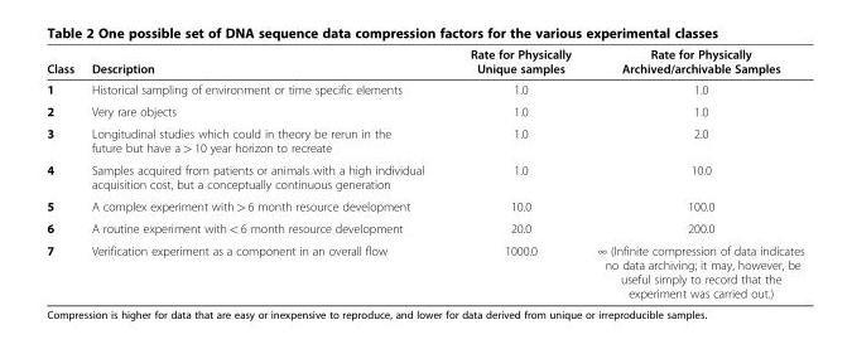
<table><thead><tr><td>Class</td><td>Description</td><td>Rate for Physically Unique samples</td><td>Rate for Physically Archived/archivable Samples</td></tr></thead><tbody><tr><td>1</td><td>Historical sampling of environment or time specific elements</td><td>1.0</td><td>1.0</td></tr><tr><td>2</td><td>Very rare objects</td><td>1.0</td><td>1.0</td></tr><tr><td>3</td><td>Longitudinal studies which could in theory be rerun in the future but have a &gt; 10 year horizon to recreate</td><td>1.0</td><td>2.0</td></tr><tr><td>4</td><td>Samples acquired from patients or animals with a high individual acquisition cost, but a conceptually continuous generation</td><td>1.0</td><td>10.0</td></tr><tr><td>5</td><td>A complex experiment with &gt; 6 month resource development</td><td>10.0</td><td>100.0</td></tr><tr><td>6</td><td>A routine experiment with &lt; 6 month resource development</td><td>20.0</td><td>200.0</td></tr><tr><td>7</td><td>Verification experiment as a component in an overall flow</td><td>1000.0</td><td>∞ (Infinite compression of data indicates no data archiving; it may, however, be useful simply to record that the experiment was carried out.)</td></tr></tbody></table>